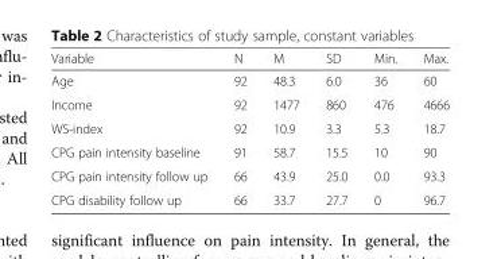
<table><thead><tr><td>Variable</td><td>N</td><td>M</td><td>SD</td><td>Min.</td><td>Max.</td></tr></thead><tbody><tr><td>Age</td><td>92</td><td>48.3</td><td>6.0</td><td>36</td><td>60</td></tr><tr><td>Income</td><td>92</td><td>1477</td><td>860</td><td>476</td><td>4666</td></tr><tr><td>WS-index</td><td>92</td><td>10.9</td><td>3.3</td><td>5.3</td><td>18.7</td></tr><tr><td>CPG pain intensity baseline</td><td>91</td><td>58.7</td><td>15.5</td><td>10</td><td>90</td></tr><tr><td>CPG pain intensity follow up</td><td>66</td><td>43.9</td><td>25.0</td><td>0.0</td><td>93.3</td></tr><tr><td>CPG disability follow up</td><td>66</td><td>33.7</td><td>27.7</td><td>0</td><td>96.7</td></tr></tbody></table>